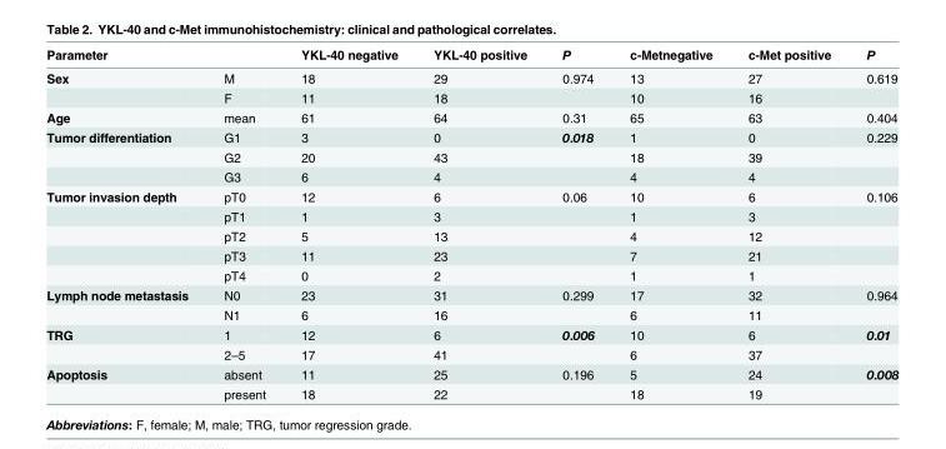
<table><thead><tr><td>Parameter</td><td></td><td>YKL-40 negative</td><td>YKL-40 positive</td><td>P</td><td>c-Metnegative</td><td>c-Met positive</td><td>P</td></tr></thead><tbody><tr><td rowspan="2">Sex</td><td>M</td><td>18</td><td>29</td><td>0.974</td><td>13</td><td>27</td><td>0.619</td></tr><tr><td>F</td><td>11</td><td>18</td><td></td><td>10</td><td>16</td><td></td></tr><tr><td>Age</td><td>mean</td><td>61</td><td>64</td><td>0.31</td><td>65</td><td>63</td><td>0.404</td></tr><tr><td rowspan="3">Tumor differentiation</td><td>G1</td><td>3</td><td>0</td><td>0.018</td><td>1</td><td>0</td><td>0.229</td></tr><tr><td>G2</td><td>20</td><td>43</td><td></td><td>18</td><td>39</td><td></td></tr><tr><td>G3</td><td>6</td><td>4</td><td></td><td>4</td><td>4</td><td></td></tr><tr><td rowspan="5">Tumor invasion depth</td><td>pT0</td><td>12</td><td>6</td><td>0.06</td><td>10</td><td>6</td><td>0.106</td></tr><tr><td>pT1</td><td>1</td><td>3</td><td></td><td>1</td><td>3</td><td></td></tr><tr><td>pT2</td><td>5</td><td>13</td><td></td><td>4</td><td>12</td><td></td></tr><tr><td>pT3</td><td>11</td><td>23</td><td></td><td>7</td><td>21</td><td></td></tr><tr><td>pT4</td><td>0</td><td>2</td><td></td><td>1</td><td>1</td><td></td></tr><tr><td rowspan="2">Lymph node metastasis</td><td>N0</td><td>23</td><td>31</td><td>0.299</td><td>17</td><td>32</td><td>0.964</td></tr><tr><td>N1</td><td>6</td><td>16</td><td></td><td>6</td><td>11</td><td></td></tr><tr><td rowspan="2">TRG</td><td>1</td><td>12</td><td>6</td><td>0.006</td><td>10</td><td>6</td><td>0.01</td></tr><tr><td>2–5</td><td>17</td><td>41</td><td></td><td>6</td><td>37</td><td></td></tr><tr><td rowspan="2">Apoptosis</td><td>absent</td><td>11</td><td>25</td><td>0.196</td><td>5</td><td>24</td><td>0.008</td></tr><tr><td>present</td><td>18</td><td>22</td><td></td><td>18</td><td>19</td><td></td></tr></tbody></table>